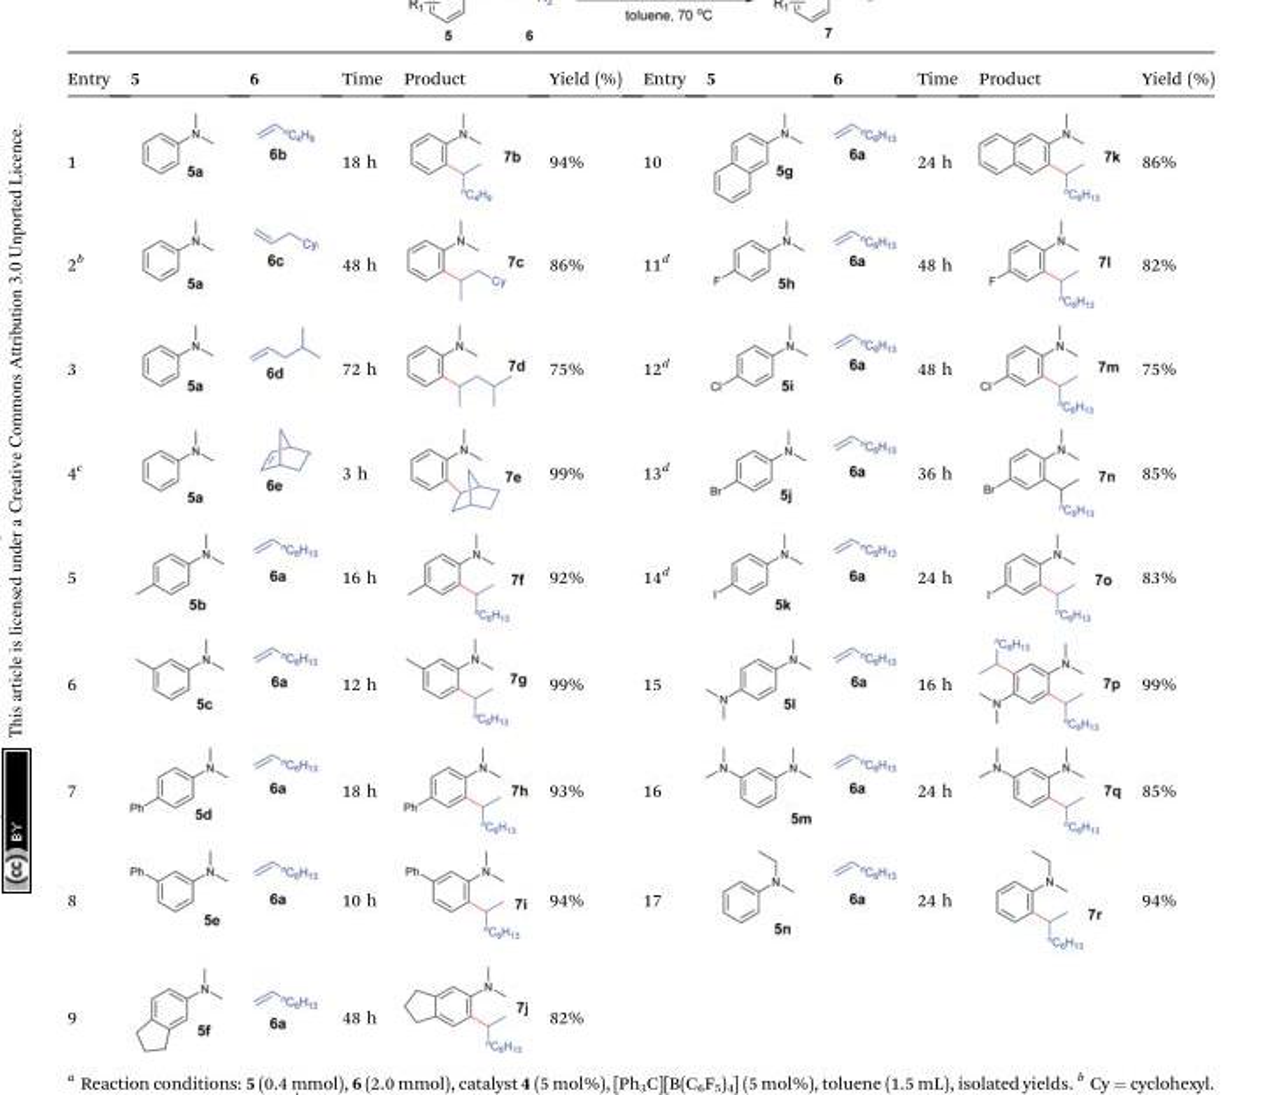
<table><thead><tr><td>Entry</td><td>5</td><td>6</td><td>Time</td><td>Product</td><td>Yield (%)</td><td>Entry</td><td>5</td><td>6</td><td>Time</td><td>Product</td><td>Yield (%)</td></tr></thead><tbody><tr><td>1</td><td></td><td></td><td>18 h</td><td></td><td>94%</td><td>10</td><td></td><td></td><td>24 h</td><td></td><td>86%</td></tr><tr><td>2<sup>b</sup></td><td></td><td></td><td>48 h</td><td></td><td>86%</td><td>11<sup>d</sup></td><td></td><td></td><td>48 h</td><td></td><td>82%</td></tr><tr><td>3</td><td></td><td></td><td>72 h</td><td></td><td>75%</td><td>12<sup>d</sup></td><td></td><td></td><td>48 h</td><td></td><td>75%</td></tr><tr><td>4<sup>c</sup></td><td></td><td></td><td>3 h</td><td></td><td>99%</td><td>13<sup>d</sup></td><td></td><td></td><td>36 h</td><td></td><td>85%</td></tr><tr><td>5</td><td></td><td></td><td>16 h</td><td></td><td>92%</td><td>14<sup>d</sup></td><td></td><td></td><td>24 h</td><td></td><td>83%</td></tr><tr><td>6</td><td></td><td></td><td>12 h</td><td></td><td>99%</td><td>15</td><td></td><td></td><td>16 h</td><td></td><td>99%</td></tr><tr><td>7</td><td></td><td></td><td>18 h</td><td></td><td>93%</td><td>16</td><td></td><td></td><td>24 h</td><td></td><td>85%</td></tr><tr><td>8</td><td></td><td></td><td>10 h</td><td></td><td>94%</td><td>17</td><td></td><td></td><td>24 h</td><td></td><td>94%</td></tr><tr><td>9</td><td></td><td></td><td>48 h</td><td></td><td>82%</td><td></td><td></td><td></td><td></td><td></td><td></td></tr></tbody></table>